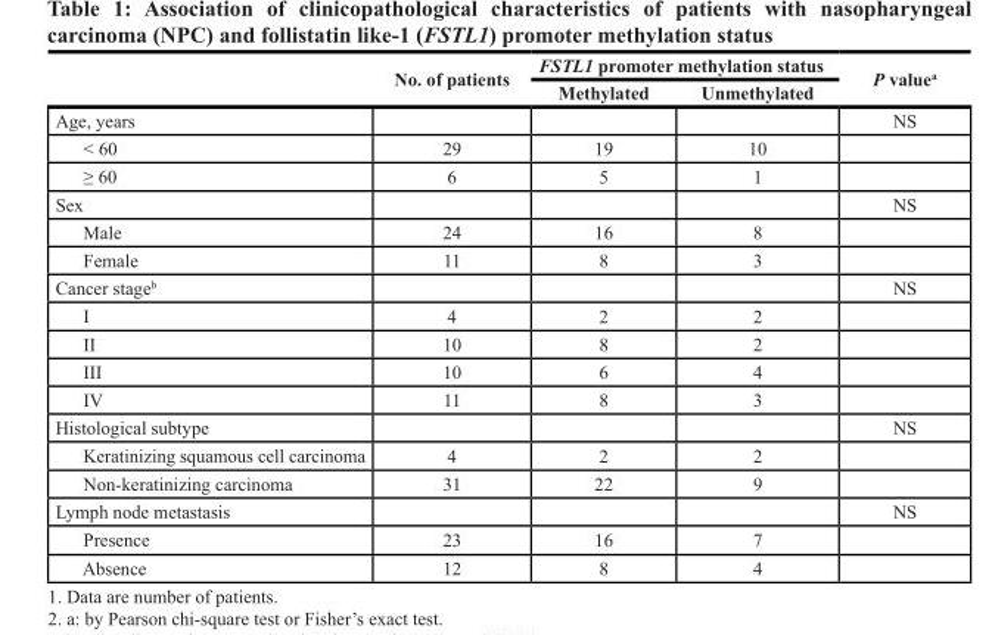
<table><thead><tr><td rowspan="2"></td><td rowspan="2">No. of patients</td><td colspan="2">FSTL1 promoter methylation status</td><td rowspan="2">P value<sup>a</sup></td></tr><tr><td>Methylated</td><td>Unmethylated</td></tr></thead><tbody><tr><td>Age, years</td><td></td><td></td><td></td><td>NS</td></tr><tr><td>&lt; 60</td><td>29</td><td>19</td><td>10</td><td></td></tr><tr><td>≥ 60</td><td>6</td><td>5</td><td>1</td><td></td></tr><tr><td>Sex</td><td></td><td></td><td></td><td>NS</td></tr><tr><td>Male</td><td>24</td><td>16</td><td>8</td><td></td></tr><tr><td>Female</td><td>11</td><td>8</td><td>3</td><td></td></tr><tr><td>Cancer stage<sup>b</sup></td><td></td><td></td><td></td><td>NS</td></tr><tr><td>I</td><td>4</td><td>2</td><td>2</td><td></td></tr><tr><td>II</td><td>10</td><td>8</td><td>2</td><td></td></tr><tr><td>III</td><td>10</td><td>6</td><td>4</td><td></td></tr><tr><td>IV</td><td>11</td><td>8</td><td>3</td><td></td></tr><tr><td>Histological subtype</td><td></td><td></td><td></td><td>NS</td></tr><tr><td>Keratinizing squamous cell carcinoma</td><td>4</td><td>2</td><td>2</td><td></td></tr><tr><td>Non-keratinizing carcinoma</td><td>31</td><td>22</td><td>9</td><td></td></tr><tr><td>Lymph node metastasis</td><td></td><td></td><td></td><td>NS</td></tr><tr><td>Presence</td><td>23</td><td>16</td><td>7</td><td></td></tr><tr><td>Absence</td><td>12</td><td>8</td><td>4</td><td></td></tr></tbody></table>